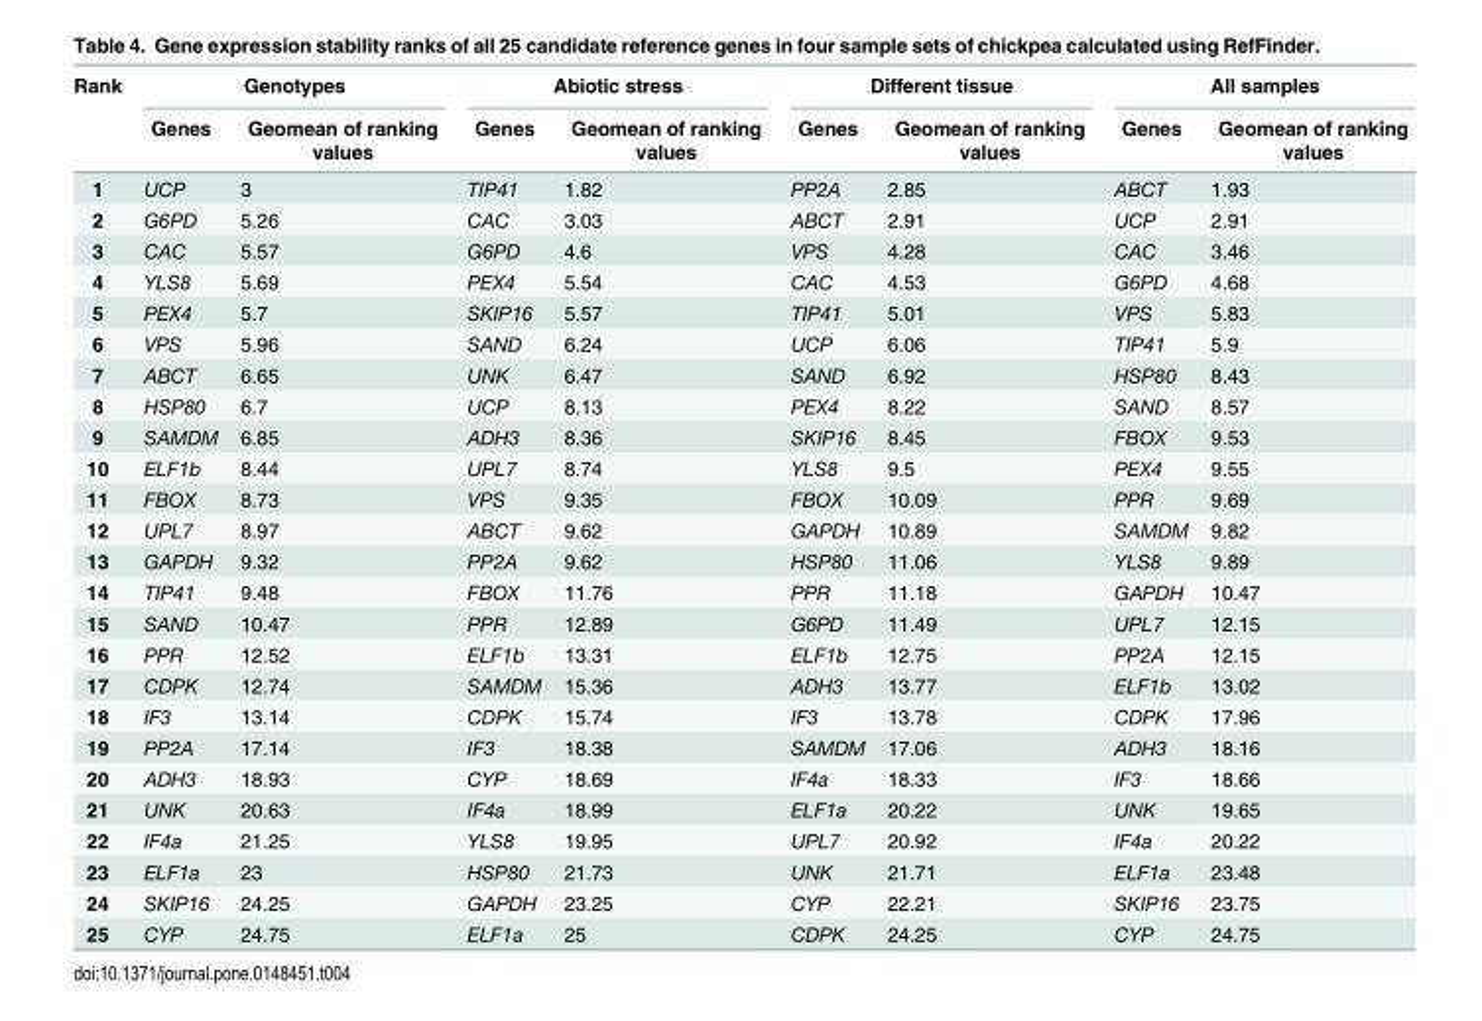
<table><thead><tr><td rowspan="2">Rank</td><td colspan="2">Genotypes</td><td colspan="2">Abiotic stress</td><td colspan="2">Different tissue</td><td colspan="2">All samples</td></tr><tr><td>Genes</td><td>Geomean of ranking values</td><td>Genes</td><td>Geomean of ranking values</td><td>Genes</td><td>Geomean of ranking values</td><td>Genes</td><td>Geomean of ranking values</td></tr></thead><tbody><tr><td>1</td><td>UCP</td><td>3</td><td>TIP41</td><td>1.82</td><td>PP2A</td><td>2.85</td><td>ABCT</td><td>1.93</td></tr><tr><td>2</td><td>G6PD</td><td>5.26</td><td>CAC</td><td>3.03</td><td>ABCT</td><td>2.91</td><td>UCP</td><td>2.91</td></tr><tr><td>3</td><td>CAC</td><td>5.57</td><td>G6PD</td><td>4.6</td><td>VPS</td><td>4.28</td><td>CAC</td><td>3.46</td></tr><tr><td>4</td><td>YLS8</td><td>5.69</td><td>PEX4</td><td>5.54</td><td>CAC</td><td>4.53</td><td>G6PD</td><td>4.68</td></tr><tr><td>5</td><td>PEX4</td><td>5.7</td><td>SKIP16</td><td>5.57</td><td>TIP41</td><td>5.01</td><td>VPS</td><td>5.83</td></tr><tr><td>6</td><td>VPS</td><td>5.96</td><td>SAND</td><td>6.24</td><td>UCP</td><td>6.06</td><td>TIP41</td><td>5.9</td></tr><tr><td>7</td><td>ABCT</td><td>6.65</td><td>UNK</td><td>6.47</td><td>SAND</td><td>6.92</td><td>HSP80</td><td>8.43</td></tr><tr><td>8</td><td>HSP80</td><td>6.7</td><td>UCP</td><td>8.13</td><td>PEX4</td><td>8.22</td><td>SAND</td><td>8.57</td></tr><tr><td>9</td><td>SAMDM</td><td>6.85</td><td>ADH3</td><td>8.36</td><td>SKIP16</td><td>8.45</td><td>FBOX</td><td>9.53</td></tr><tr><td>10</td><td>ELF1b</td><td>8.44</td><td>UPL7</td><td>8.74</td><td>YLS8</td><td>9.5</td><td>PEX4</td><td>9.55</td></tr><tr><td>11</td><td>FBOX</td><td>8.73</td><td>VPS</td><td>9.35</td><td>FBOX</td><td>10.09</td><td>PPR</td><td>9.69</td></tr><tr><td>12</td><td>UPL7</td><td>8.97</td><td>ABCT</td><td>9.62</td><td>GAPDH</td><td>10.89</td><td>SAMDM</td><td>9.82</td></tr><tr><td>13</td><td>GAPDH</td><td>9.32</td><td>PP2A</td><td>9.62</td><td>HSP80</td><td>11.06</td><td>YLS8</td><td>9.89</td></tr><tr><td>14</td><td>TIP41</td><td>9.48</td><td>FBOX</td><td>11.76</td><td>PPR</td><td>11.18</td><td>GAPDH</td><td>10.47</td></tr><tr><td>15</td><td>SAND</td><td>10.47</td><td>PPR</td><td>12.89</td><td>G6PD</td><td>11.49</td><td>UPL7</td><td>12.15</td></tr><tr><td>16</td><td>PPR</td><td>12.52</td><td>ELF1b</td><td>13.31</td><td>ELF1b</td><td>12.75</td><td>PP2A</td><td>12.15</td></tr><tr><td>17</td><td>CDPK</td><td>12.74</td><td>SAMDM</td><td>15.36</td><td>ADH3</td><td>13.77</td><td>ELF1b</td><td>13.02</td></tr><tr><td>18</td><td>IF3</td><td>13.14</td><td>CDPK</td><td>15.74</td><td>IF3</td><td>13.78</td><td>CDPK</td><td>17.96</td></tr><tr><td>19</td><td>PP2A</td><td>17.14</td><td>IF3</td><td>18.38</td><td>SAMDM</td><td>17.06</td><td>ADH3</td><td>18.16</td></tr><tr><td>20</td><td>ADH3</td><td>18.93</td><td>CYP</td><td>18.69</td><td>IF4a</td><td>18.33</td><td>IF3</td><td>18.66</td></tr><tr><td>21</td><td>UNK</td><td>20.63</td><td>IF4a</td><td>18.99</td><td>ELF1a</td><td>20.22</td><td>UNK</td><td>19.65</td></tr><tr><td>22</td><td>IF4a</td><td>21.25</td><td>YLS8</td><td>19.95</td><td>UPL7</td><td>20.92</td><td>IF4a</td><td>20.22</td></tr><tr><td>23</td><td>ELF1a</td><td>23</td><td>HSP80</td><td>21.73</td><td>UNK</td><td>21.71</td><td>ELF1a</td><td>23.48</td></tr><tr><td>24</td><td>SKIP16</td><td>24.25</td><td>GAPDH</td><td>23.25</td><td>CYP</td><td>22.21</td><td>SKIP16</td><td>23.75</td></tr><tr><td>25</td><td>CYP</td><td>24.75</td><td>ELF1a</td><td>25</td><td>CDPK</td><td>24.25</td><td>CYP</td><td>24.75</td></tr></tbody></table>